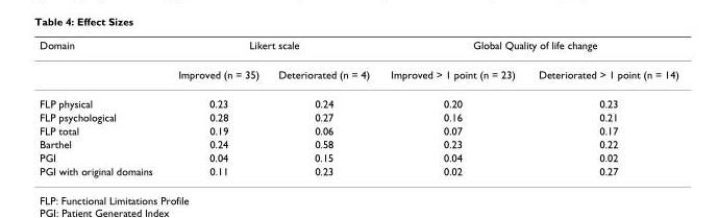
<table><thead><tr><td rowspan="2">Domain</td><td colspan="2">Likert scale</td><td colspan="2">Global Quality of life change</td></tr><tr><td>Improved (n = 35)</td><td>Deteriorated (n = 4)</td><td>Improved &gt; 1 point (n = 23)</td><td>Deteriorated &gt; 1 point (n = 14)</td></tr></thead><tbody><tr><td>FLP physical</td><td>0.23</td><td>0.24</td><td>0.20</td><td>0.23</td></tr><tr><td>FLP psychological</td><td>0.28</td><td>0.27</td><td>0.16</td><td>0.21</td></tr><tr><td>FLP total</td><td>0.19</td><td>0.06</td><td>0.07</td><td>0.17</td></tr><tr><td>Barthel</td><td>0.24</td><td>0.58</td><td>0.23</td><td>0.22</td></tr><tr><td>PGI</td><td>0.04</td><td>0.15</td><td>0.04</td><td>0.02</td></tr><tr><td>PGI with original domains</td><td>0.11</td><td>0.23</td><td>0.02</td><td>0.27</td></tr></tbody></table>